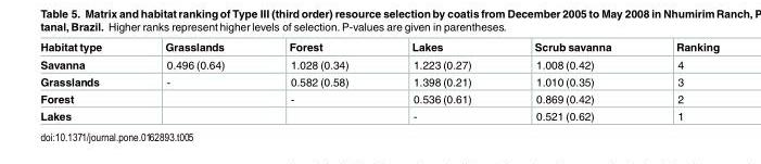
<table><thead><tr><td>Habitat type</td><td>Grasslands</td><td>Forest</td><td>Lakes</td><td>Scrub savanna</td><td>Ranking</td></tr></thead><tbody><tr><td>Savanna</td><td>0.496 (0.64)</td><td>1.028 (0.34)</td><td>1.223 (0.27)</td><td>1.008 (0.42)</td><td>4</td></tr><tr><td>Grasslands</td><td>-</td><td>0.582 (0.58)</td><td>1.398 (0.21)</td><td>1.010 (0.35)</td><td>3</td></tr><tr><td>Forest</td><td></td><td>-</td><td>0.536 (0.61)</td><td>0.869 (0.42)</td><td>2</td></tr><tr><td>Lakes</td><td></td><td></td><td>-</td><td>0.521 (0.62)</td><td>1</td></tr></tbody></table>